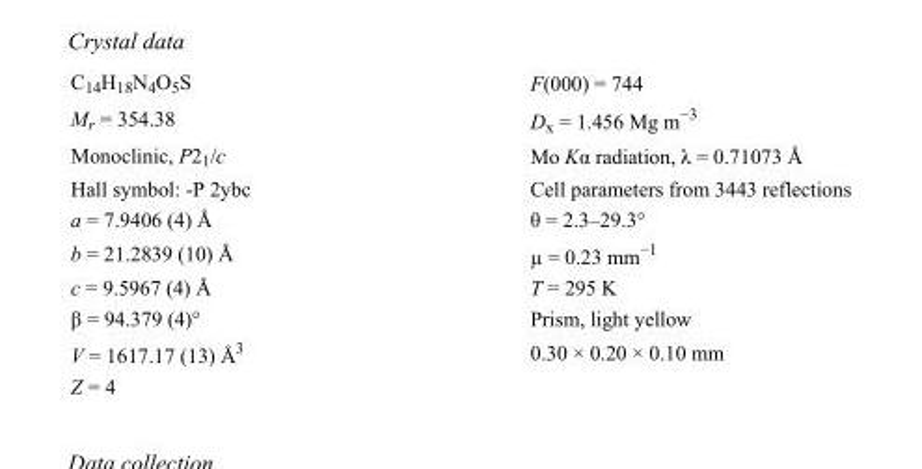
<table><tbody><tr><td>C<sub>14</sub>H<sub>18</sub>N<sub>4</sub>O<sub>5</sub>S</td><td>F(000) = 744</td></tr><tr><td>M<sub>r</sub> = 354.38</td><td>D<sub>x</sub> = 1.456 Mg m<sup>−3</sup></td></tr><tr><td>Monoclinic, P2<sub>1</sub>/c</td><td>Mo Kα radiation, λ = 0.71073 Å</td></tr><tr><td>Hall symbol: -P 2ybc</td><td>Cell parameters from 3443 reflections</td></tr><tr><td>a = 7.9406 (4) Å</td><td>θ = 2.3–29.3°</td></tr><tr><td>b = 21.2839 (10) Å</td><td>µ = 0.23 mm<sup>−1</sup></td></tr><tr><td>c = 9.5967 (4) Å</td><td>T = 295 K</td></tr><tr><td>β = 94.379 (4)°</td><td>Prism, light yellow</td></tr><tr><td>V = 1617.17 (13) Å<sup>3</sup></td><td>0.30 × 0.20 × 0.10 mm</td></tr><tr><td>Z = 4</td><td></td></tr></tbody></table>